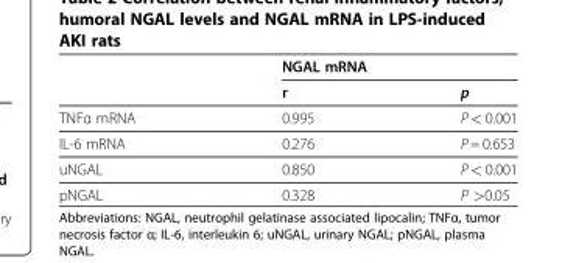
<table><thead><tr><td rowspan="2"></td><td colspan="2">NGAL mRNA</td></tr><tr><td>r</td><td>p</td></tr></thead><tbody><tr><td>TNFα mRNA</td><td>0.995</td><td>P &lt; 0.001</td></tr><tr><td>IL-6 mRNA</td><td>0.276</td><td>P = 0.653</td></tr><tr><td>uNGAL</td><td>0.850</td><td>P &lt; 0.001</td></tr><tr><td>pNGAL</td><td>0.328</td><td>P &gt;0.05</td></tr></tbody></table>